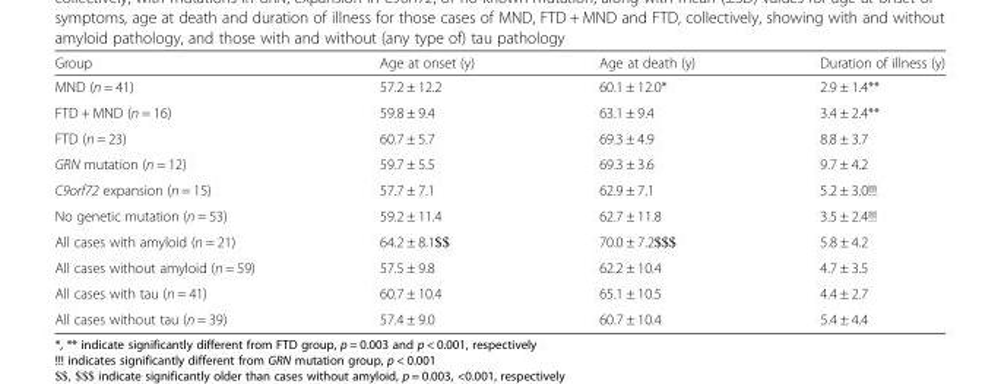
<table><thead><tr><td>Group</td><td>Age at onset (y)</td><td>Age at death (y)</td><td>Duration of illness (y)</td></tr></thead><tbody><tr><td>MND (n = 41)</td><td>57.2 ± 12.2</td><td>60.1 ± 12.0*</td><td>2.9 ± 1.4**</td></tr><tr><td>FTD + MND (n = 16)</td><td>59.8 ± 9.4</td><td>63.1 ± 9.4</td><td>3.4 ± 2.4**</td></tr><tr><td>FTD (n = 23)</td><td>60.7 ± 5.7</td><td>69.3 ± 4.9</td><td>8.8 ± 3.7</td></tr><tr><td>GRN mutation (n = 12)</td><td>59.7 ± 5.5</td><td>69.3 ± 3.6</td><td>9.7 ± 4.2</td></tr><tr><td>C9orf72 expansion (n = 15)</td><td>57.7 ± 7.1</td><td>62.9 ± 7.1</td><td>5.2 ± 3.0!!!</td></tr><tr><td>No genetic mutation (n = 53)</td><td>59.2 ± 11.4</td><td>62.7 ± 11.8</td><td>3.5 ± 2.4!!!</td></tr><tr><td>All cases with amyloid (n = 21)</td><td>64.2 ± 8.1$$</td><td>70.0 ± 7.2$$$</td><td>5.8 ± 4.2</td></tr><tr><td>All cases without amyloid (n = 59)</td><td>57.5 ± 9.8</td><td>62.2 ± 10.4</td><td>4.7 ± 3.5</td></tr><tr><td>All cases with tau (n = 41)</td><td>60.7 ± 10.4</td><td>65.1 ± 10.5</td><td>4.4 ± 2.7</td></tr><tr><td>All cases without tau (n = 39)</td><td>57.4 ± 9.0</td><td>60.7 ± 10.4</td><td>5.4 ± 4.4</td></tr></tbody></table>